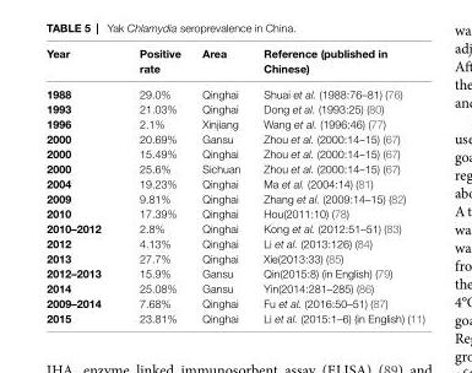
<table><thead><tr><td>Year</td><td>Positive rate</td><td>Area</td><td>Reference (published in Chinese)</td></tr></thead><tbody><tr><td>1988</td><td>29.0%</td><td>Qinghai</td><td>Shuai et al. (1988:76–81) (76)</td></tr><tr><td>1993</td><td>21.03%</td><td>Qinghai</td><td>Dong et al. (1993:25) (80)</td></tr><tr><td>1996</td><td>2.1%</td><td>Xinjiang</td><td>Wang et al. (1996:46) (77)</td></tr><tr><td>2000</td><td>20.69%</td><td>Gansu</td><td>Zhou et al. (2000:14–15) (67)</td></tr><tr><td>2000</td><td>15.49%</td><td>Qinghai</td><td>Zhou et al. (2000:14–15) (67)</td></tr><tr><td>2000</td><td>25.6%</td><td>Sichuan</td><td>Zhou et al. (2000:14–15) (67)</td></tr><tr><td>2004</td><td>19.23%</td><td>Qinghai</td><td>Ma et al. (2004:14) (81)</td></tr><tr><td>2009</td><td>9.81%</td><td>Qinghai</td><td>Zhang et al. (2009:14–15) (82)</td></tr><tr><td>2010</td><td>17.39%</td><td>Qinghai</td><td>Hou(2011:10) (78)</td></tr><tr><td>2010–2012</td><td>2.8%</td><td>Qinghai</td><td>Kong et al. (2012:51–51) (83)</td></tr><tr><td>2012</td><td>4.13%</td><td>Qinghai</td><td>Li et al. (2013:126) (84)</td></tr><tr><td>2013</td><td>27.7%</td><td>Qinghai</td><td>Xie(2013:33) (85)</td></tr><tr><td>2012–2013</td><td>15.9%</td><td>Gansu</td><td>Qin(2015:8) (in English) (79)</td></tr><tr><td>2014</td><td>25.08%</td><td>Gansu</td><td>Yin(2014:281–285) (86)</td></tr><tr><td>2009–2014</td><td>7.68%</td><td>Qinghai</td><td>Fu et al. (2016:50–51) (87)</td></tr><tr><td>2015</td><td>23.81%</td><td>Qinghai</td><td>Li et al. (2015:1–6) (in English) (11)</td></tr></tbody></table>